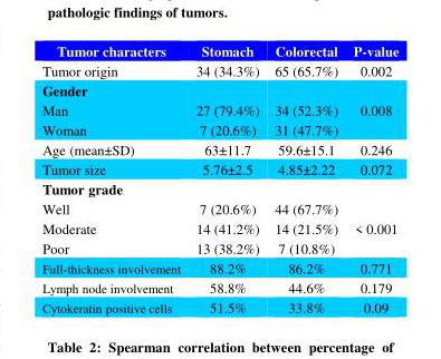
<table><thead><tr><td>Tumor characters</td><td>Stomach</td><td>Colorectal</td><td>P-value</td></tr></thead><tbody><tr><td>Tumor origin</td><td>34 (34.3%)</td><td>65 (65.7%)</td><td>0.002</td></tr><tr><td>Gender Man Woman</td><td>27 (79.4%) 7 (20.6%)</td><td>34 (52.3%) 31 (47.7%)</td><td>0.008</td></tr><tr><td>Age (mean±SD)</td><td>63±11.7</td><td>59.6±15.1</td><td>0.246</td></tr><tr><td>Tumor size</td><td>5.76±2.5</td><td>4.85±2.22</td><td>0.072</td></tr><tr><td>Tumor grade Well Moderate Poor</td><td>7 (20.6%) 14 (41.2%) 13 (38.2%)</td><td>44 (67.7%) 14 (21.5%) 7 (10.8%)</td><td>&lt; 0.001</td></tr><tr><td>Full-thickness involvement</td><td>88.2%</td><td>86.2%</td><td>0.771</td></tr><tr><td>Lymph node involvement</td><td>58.8%</td><td>44.6%</td><td>0.179</td></tr><tr><td>Cytokeratin positive cells</td><td>51.5%</td><td>33.8%</td><td>0.09</td></tr></tbody></table>